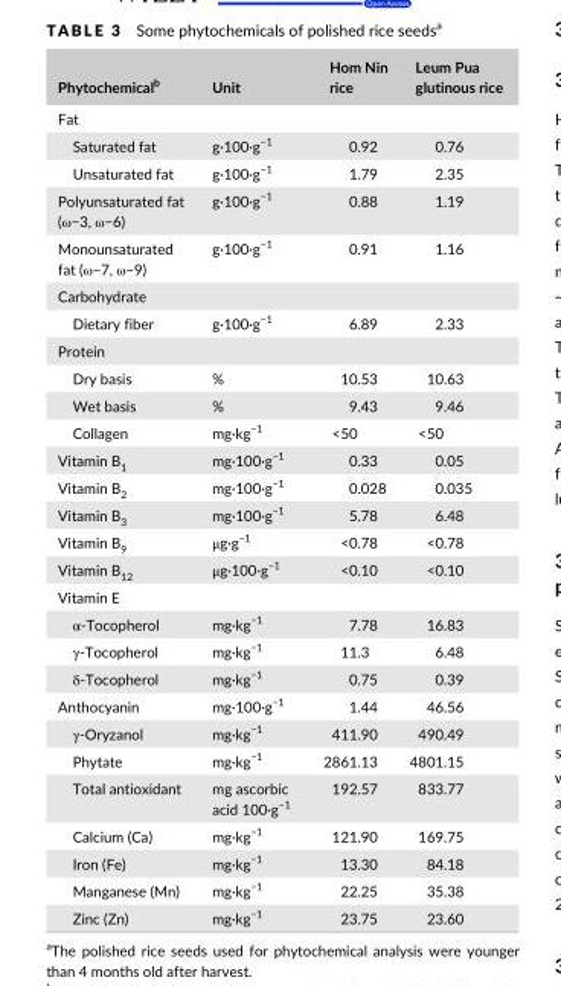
<table><thead><tr><td>Phytochemical<sup>b</sup></td><td>Unit</td><td>Hom Nin rice</td><td>Leum Pua glutinous rice</td></tr></thead><tbody><tr><td colspan="4">Fat</td></tr><tr><td>Saturated fat</td><td>g·100·g<sup>−1</sup></td><td>0.92</td><td>0.76</td></tr><tr><td>Unsaturated fat</td><td>g·100·g<sup>−1</sup></td><td>1.79</td><td>2.35</td></tr><tr><td>Polyunsaturated fat (ω−3, ω−6)</td><td>g·100·g<sup>−1</sup></td><td>0.88</td><td>1.19</td></tr><tr><td>Monounsaturated fat (ω−7, ω−9)</td><td>g·100·g<sup>−1</sup></td><td>0.91</td><td>1.16</td></tr><tr><td colspan="4">Carbohydrate</td></tr><tr><td>Dietary fiber</td><td>g·100·g<sup>−1</sup></td><td>6.89</td><td>2.33</td></tr><tr><td colspan="4">Protein</td></tr><tr><td>Dry basis</td><td>%</td><td>10.53</td><td>10.63</td></tr><tr><td>Wet basis</td><td>%</td><td>9.43</td><td>9.46</td></tr><tr><td>Collagen</td><td>mg·kg<sup>−1</sup></td><td>&lt;50</td><td>&lt;50</td></tr><tr><td>Vitamin B<sub>1</sub></td><td>mg·100·g<sup>−1</sup></td><td>0.33</td><td>0.05</td></tr><tr><td>Vitamin B<sub>2</sub></td><td>mg·100·g<sup>−1</sup></td><td>0.028</td><td>0.035</td></tr><tr><td>Vitamin B<sub>3</sub></td><td>mg·100·g<sup>−1</sup></td><td>5.78</td><td>6.48</td></tr><tr><td>Vitamin B<sub>9</sub></td><td>μg·g<sup>−1</sup></td><td>&lt;0.78</td><td>&lt;0.78</td></tr><tr><td>Vitamin B<sub>12</sub></td><td>μg·100·g<sup>−1</sup></td><td>&lt;0.10</td><td>&lt;0.10</td></tr><tr><td colspan="4">Vitamin E</td></tr><tr><td>α- Tocopherol</td><td>mg·kg<sup>−1</sup></td><td>7.78</td><td>16.83</td></tr><tr><td>γ- Tocopherol</td><td>mg·kg<sup>−1</sup></td><td>11.3</td><td>6.48</td></tr><tr><td>δ- Tocopherol</td><td>mg·kg<sup>−1</sup></td><td>0.75</td><td>0.39</td></tr><tr><td>Anthocyanin</td><td>mg·100·g<sup>−1</sup></td><td>1.44</td><td>46.56</td></tr><tr><td>γ- Oryzanol</td><td>mg·kg<sup>−1</sup></td><td>411.90</td><td>490.49</td></tr><tr><td>Phytate</td><td>mg·kg<sup>−1</sup></td><td>2861.13</td><td>4801.15</td></tr><tr><td>Total antioxidant</td><td>mg ascorbic acid 100·g<sup>−1</sup></td><td>192.57</td><td>833.77</td></tr><tr><td>Calcium (Ca)</td><td>mg·kg<sup>−1</sup></td><td>121.90</td><td>169.75</td></tr><tr><td>Iron (Fe)</td><td>mg·kg<sup>−1</sup></td><td>13.30</td><td>84.18</td></tr><tr><td>Manganese (Mn)</td><td>mg·kg<sup>−1</sup></td><td>22.25</td><td>35.38</td></tr><tr><td>Zinc (Zn)</td><td>mg·kg<sup>−1</sup></td><td>23.75</td><td>23.60</td></tr></tbody></table>